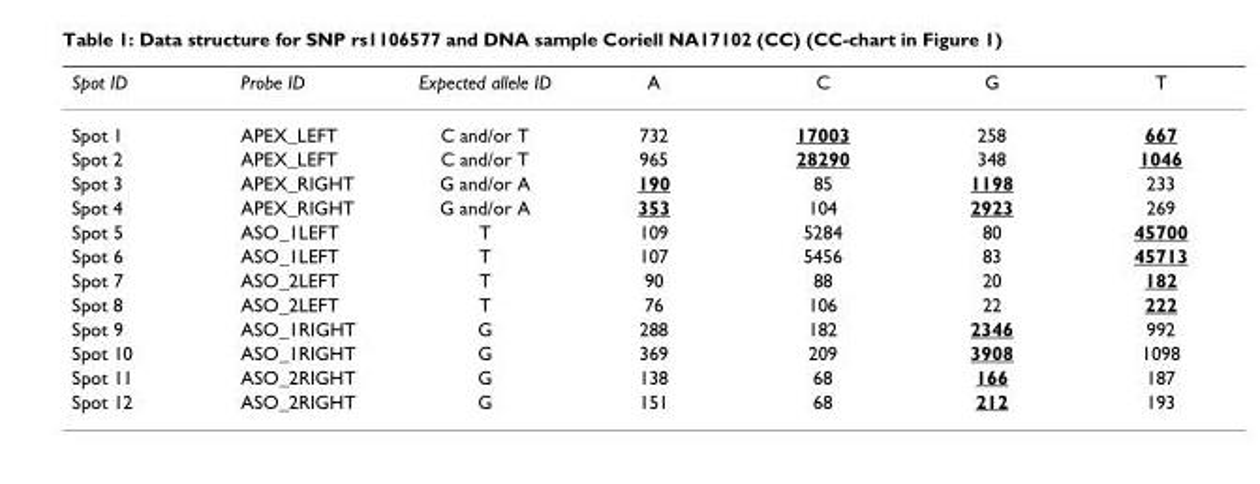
<table><thead><tr><td>Spot ID</td><td>Probe ID</td><td>Expected allele ID</td><td>A</td><td>C</td><td>G</td><td>T</td></tr></thead><tbody><tr><td>Spot 1</td><td>APEX_LEFT</td><td>C and/or T</td><td>732</td><td>17003</td><td>258</td><td>667</td></tr><tr><td>Spot 2</td><td>APEX_LEFT</td><td>C and/or T</td><td>965</td><td>28290</td><td>348</td><td>1046</td></tr><tr><td>Spot 3</td><td>APEX_RIGHT</td><td>G and/or A</td><td>190</td><td>85</td><td>1198</td><td>233</td></tr><tr><td>Spot 4</td><td>APEX_RIGHT</td><td>G and/or A</td><td>353</td><td>104</td><td>2923</td><td>269</td></tr><tr><td>Spot 5</td><td>ASO_1LEFT</td><td>T</td><td>109</td><td>5284</td><td>80</td><td>45700</td></tr><tr><td>Spot 6</td><td>ASO_1LEFT</td><td>T</td><td>107</td><td>5456</td><td>83</td><td>45713</td></tr><tr><td>Spot 7</td><td>ASO_2LEFT</td><td>T</td><td>90</td><td>88</td><td>20</td><td>182</td></tr><tr><td>Spot 8</td><td>ASO_2LEFT</td><td>T</td><td>76</td><td>106</td><td>22</td><td>222</td></tr><tr><td>Spot 9</td><td>ASO_1RIGHT</td><td>G</td><td>288</td><td>182</td><td>2346</td><td>992</td></tr><tr><td>Spot 10</td><td>ASO_1RIGHT</td><td>G</td><td>369</td><td>209</td><td>3908</td><td>1098</td></tr><tr><td>Spot 11</td><td>ASO_2RIGHT</td><td>G</td><td>138</td><td>68</td><td>166</td><td>187</td></tr><tr><td>Spot 12</td><td>ASO_2RIGHT</td><td>G</td><td>151</td><td>68</td><td>212</td><td>193</td></tr></tbody></table>